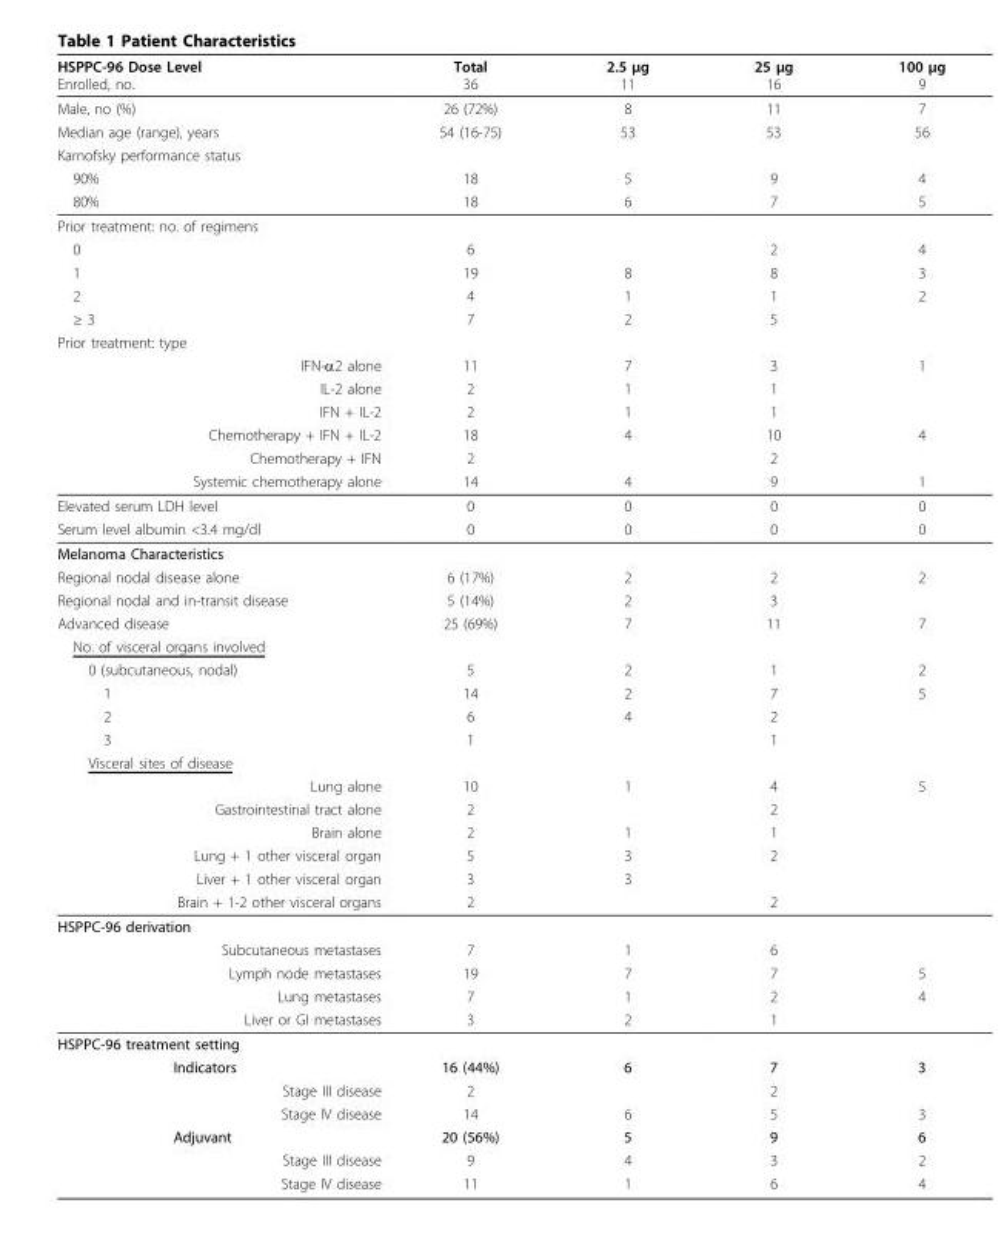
<table><thead><tr><td rowspan="2">HSPPC-96 Dose Level Enrolled, no.</td><td rowspan="2">Total 36</td><td rowspan="2">2.5 μg 11</td><td rowspan="2">25 μg 16</td><td rowspan="2">100 μg 9</td></tr><tr></tr></thead><tbody><tr><td>Male, no (%)</td><td>26 (72%)</td><td>8</td><td>11</td><td>7</td></tr><tr><td>Median age (range), years</td><td>54 (16-75)</td><td>53</td><td>53</td><td>56</td></tr><tr><td colspan="5">Karnofsky performance status</td></tr><tr><td>90%</td><td>18</td><td>5</td><td>9</td><td>4</td></tr><tr><td>80%</td><td>18</td><td>6</td><td>7</td><td>5</td></tr><tr><td colspan="5">Prior treatment: no. of regimens</td></tr><tr><td>0</td><td>6</td><td></td><td>2</td><td>4</td></tr><tr><td>1</td><td>19</td><td>8</td><td>8</td><td>3</td></tr><tr><td>2</td><td>4</td><td>1</td><td>1</td><td>2</td></tr><tr><td>≥ 3</td><td>7</td><td>2</td><td>5</td><td></td></tr><tr><td colspan="5">Prior treatment: type</td></tr><tr><td>IFN-α2 alone</td><td>11</td><td>7</td><td>3</td><td>1</td></tr><tr><td>IL-2 alone</td><td>2</td><td>1</td><td>1</td><td></td></tr><tr><td>IFN + IL-2</td><td>2</td><td>1</td><td>1</td><td></td></tr><tr><td>Chemotherapy + IFN + IL-2</td><td>18</td><td>4</td><td>10</td><td>4</td></tr><tr><td>Chemotherapy + IFN</td><td>2</td><td></td><td>2</td><td></td></tr><tr><td>Systemic chemotherapy alone</td><td>14</td><td>4</td><td>9</td><td>1</td></tr><tr><td>Elevated serum LDH level</td><td>0</td><td>0</td><td>0</td><td>0</td></tr><tr><td>Serum level albumin &lt;3.4 mg/dl</td><td>0</td><td>0</td><td>0</td><td>0</td></tr><tr><td colspan="5">Melanoma Characteristics</td></tr><tr><td>Regional nodal disease alone</td><td>6 (17%)</td><td>2</td><td>2</td><td>2</td></tr><tr><td>Regional nodal and in-transit disease</td><td>5 (14%)</td><td>2</td><td>3</td><td></td></tr><tr><td>Advanced disease</td><td>25 (69%)</td><td>7</td><td>11</td><td>7</td></tr><tr><td colspan="5">No. of visceral organs involved</td></tr><tr><td>0 (subcutaneous, nodal)</td><td>5</td><td>2</td><td>1</td><td>2</td></tr><tr><td>1</td><td>14</td><td>2</td><td>7</td><td>5</td></tr><tr><td>2</td><td>6</td><td>4</td><td>2</td><td></td></tr><tr><td>3</td><td>1</td><td></td><td>1</td><td></td></tr><tr><td colspan="5">Visceral sites of disease</td></tr><tr><td>Lung alone</td><td>10</td><td>1</td><td>4</td><td>5</td></tr><tr><td>Gastrointestinal tract alone</td><td>2</td><td></td><td>2</td><td></td></tr><tr><td>Brain alone</td><td>2</td><td>1</td><td>1</td><td></td></tr><tr><td>Lung + 1 other visceral organ</td><td>5</td><td>3</td><td>2</td><td></td></tr><tr><td>Liver + 1 other visceral organ</td><td>3</td><td>3</td><td></td><td></td></tr><tr><td>Brain + 1-2 other visceral organs</td><td>2</td><td></td><td>2</td><td></td></tr><tr><td colspan="5">HSPPC-96 derivation</td></tr><tr><td>Subcutaneous metastases</td><td>7</td><td>1</td><td>6</td><td></td></tr><tr><td>Lymph node metastases</td><td>19</td><td>7</td><td>7</td><td>5</td></tr><tr><td>Lung metastases</td><td>7</td><td>1</td><td>2</td><td>4</td></tr><tr><td>Liver or GI metastases</td><td>3</td><td>2</td><td>1</td><td></td></tr><tr><td colspan="5">HSPPC-96 treatment setting</td></tr><tr><td>Indicators</td><td>16 (44%)</td><td>6</td><td>7</td><td>3</td></tr><tr><td>Stage III disease</td><td>2</td><td></td><td>2</td><td></td></tr><tr><td>Stage IV disease</td><td>14</td><td>6</td><td>5</td><td>3</td></tr><tr><td>Adjuvant</td><td>20 (56%)</td><td>5</td><td>9</td><td>6</td></tr><tr><td>Stage III disease</td><td>9</td><td>4</td><td>3</td><td>2</td></tr><tr><td>Stage IV disease</td><td>11</td><td>1</td><td>6</td><td>4</td></tr></tbody></table>